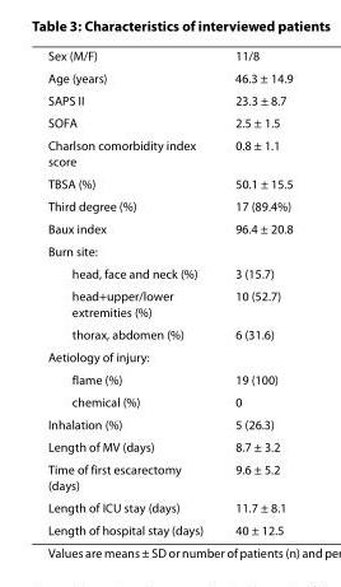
<table><tbody><tr><td>Sex (M/F)</td><td>11/8</td></tr><tr><td>Age (years)</td><td>46.3 ± 14.9</td></tr><tr><td>SAPS II</td><td>23.3 ± 8.7</td></tr><tr><td>SOFA</td><td>2.5 ± 1.5</td></tr><tr><td>Charlson comorbidity index score</td><td>0.8 ± 1.1</td></tr><tr><td>TBSA (%)</td><td>50.1 ± 15.5</td></tr><tr><td>Third degree (%)</td><td>17 (89.4%)</td></tr><tr><td>Baux index</td><td>96.4 ± 20.8</td></tr><tr><td colspan="2">Burn site:</td></tr><tr><td>head, face and neck (%)</td><td>3 (15.7)</td></tr><tr><td>head+upper/lower extremities (%)</td><td>10 (52.7)</td></tr><tr><td>thorax, abdomen (%)</td><td>6 (31.6)</td></tr><tr><td colspan="2">Aetiology of injury:</td></tr><tr><td>flame (%)</td><td>19 (100)</td></tr><tr><td>chemical (%)</td><td>0</td></tr><tr><td>Inhalation (%)</td><td>5 (26.3)</td></tr><tr><td>Length of MV (days)</td><td>8.7 ± 3.2</td></tr><tr><td>Time of first escarectomy (days)</td><td>9.6 ± 5.2</td></tr><tr><td>Length of ICU stay (days)</td><td>11.7 ± 8.1</td></tr><tr><td>Length of hospital stay (days)</td><td>40 ± 12.5</td></tr></tbody></table>